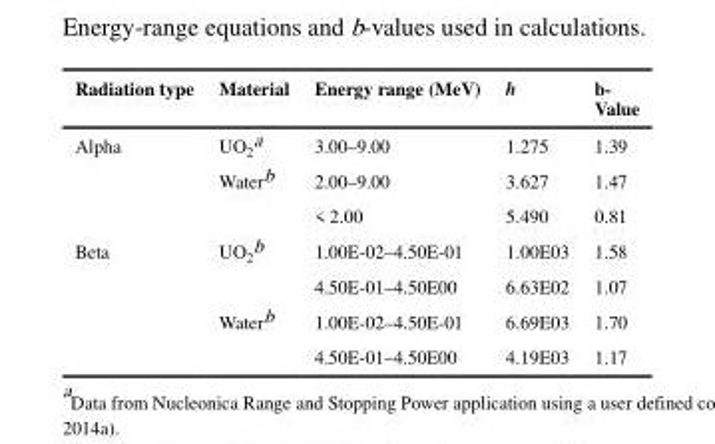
<table><thead><tr><td>Radiation type</td><td>Material</td><td>Energy range (MeV)</td><td>h</td><td>b- Value</td></tr></thead><tbody><tr><td rowspan="3">Alpha</td><td>UO<sub>2</sub><sup>a</sup></td><td>3.00–9.00</td><td>1.275</td><td>1.39</td></tr><tr><td>Water<sup>b</sup></td><td>2.00–9.00</td><td>3.627</td><td>1.47</td></tr><tr><td></td><td>&lt; 2.00</td><td>5.490</td><td>0.81</td></tr><tr><td rowspan="4">Beta</td><td>UO<sub>2</sub><sup>b</sup></td><td>1.00E-02–4.50E-01</td><td>1.00E03</td><td>1.58</td></tr><tr><td></td><td>4.50E-01–4.50E00</td><td>6.63E02</td><td>1.07</td></tr><tr><td>Water<sup>b</sup></td><td>1.00E-02–4.50E-01</td><td>6.69E03</td><td>1.70</td></tr><tr><td></td><td>4.50E-01–4.50E00</td><td>4.19E03</td><td>1.17</td></tr></tbody></table>